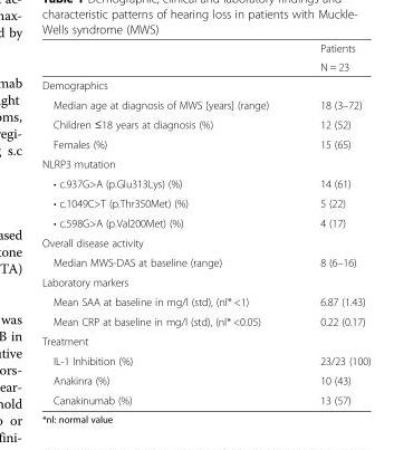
<table><thead><tr><td rowspan="2"></td><td rowspan="2">Patients N = 23</td></tr><tr></tr></thead><tbody><tr><td colspan="2">Demographics</td></tr><tr><td>Median age at diagnosis of MWS [years] (range)</td><td>18 (3–72)</td></tr><tr><td>Children ≤18 years at diagnosis (%)</td><td>12 (52)</td></tr><tr><td>Females (%)</td><td>15 (65)</td></tr><tr><td colspan="2">NLRP3 mutation</td></tr><tr><td>• c.937G&gt;A (p.Glu313Lys) (%)</td><td>14 (61)</td></tr><tr><td>• c.1049C&gt;T (p.Thr350Met) (%)</td><td>5 (22)</td></tr><tr><td>• c.598G&gt;A (p.Val200Met) (%)</td><td>4 (17)</td></tr><tr><td colspan="2">Overall disease activity</td></tr><tr><td>Median MWS-DAS at baseline (range)</td><td>8 (6–16)</td></tr><tr><td colspan="2">Laboratory markers</td></tr><tr><td>Mean SAA at baseline in mg/l (std), (nl* &lt;1)</td><td>6.87 (1.43)</td></tr><tr><td>Mean CRP at baseline in mg/l (std), (nl* &lt;0.05)</td><td>0.22 (0.17)</td></tr><tr><td colspan="2">Treatment</td></tr><tr><td>IL-1 Inhibition (%)</td><td>23/23 (100)</td></tr><tr><td>Anakinra (%)</td><td>10 (43)</td></tr><tr><td>Canakinumab (%)</td><td>13 (57)</td></tr></tbody></table>